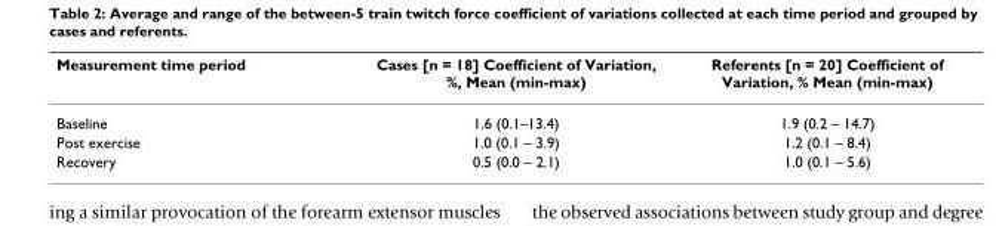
<table><thead><tr><td>Measurement time period</td><td>Cases [n = 18] Coefficient of Variation, %, Mean (min-max)</td><td>Referents [n = 20] Coefficient of Variation, % Mean (min-max)</td></tr></thead><tbody><tr><td>Baseline</td><td>1.6 (0.1–13.4)</td><td>1.9 (0.2 – 14.7)</td></tr><tr><td>Post exercise</td><td>1.0 (0.1 – 3.9)</td><td>1.2 (0.1 – 8.4)</td></tr><tr><td>Recovery</td><td>0.5 (0.0 – 2.1)</td><td>1.0 (0.1 – 5.6)</td></tr></tbody></table>